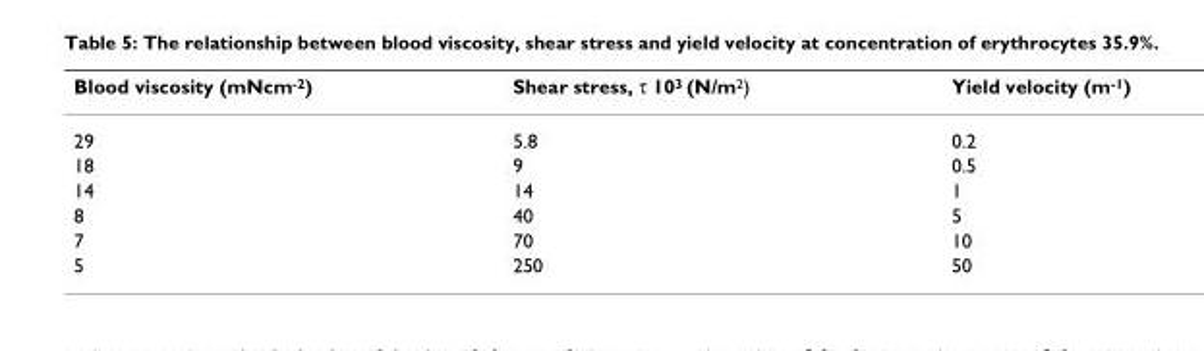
<table><thead><tr><td>Blood viscosity (mNcm<sup>-2</sup>)</td><td>Shear stress, τ 10<sup>3</sup> (N/m<sup>2</sup>)</td><td>Yield velocity (m<sup>-1</sup>)</td></tr></thead><tbody><tr><td>29</td><td>5.8</td><td>0.2</td></tr><tr><td>18</td><td>9</td><td>0.5</td></tr><tr><td>14</td><td>14</td><td>1</td></tr><tr><td>8</td><td>40</td><td>5</td></tr><tr><td>7</td><td>70</td><td>10</td></tr><tr><td>5</td><td>250</td><td>50</td></tr></tbody></table>